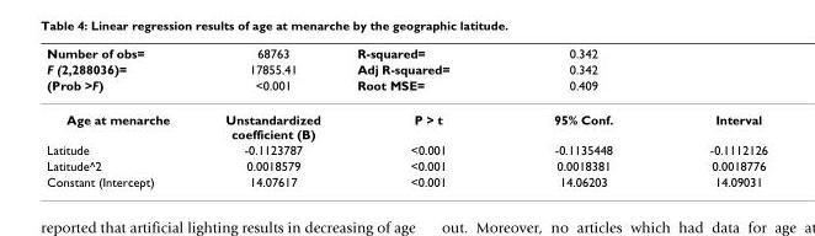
<table><thead><tr><td rowspan="3">Number of obs= F (2,288036)= (Prob &gt;F)</td><td rowspan="3">68763 17855.41 &lt;0.001</td><td rowspan="3">R-squared= Adj R-squared= Root MSE=</td><td rowspan="3">0.342 0.342 0.409</td><td rowspan="3"></td></tr><tr></tr><tr></tr></thead><tbody><tr><td>Age at menarche</td><td>Unstandardized coefficient (B)</td><td>P &gt; t</td><td>95% Conf.</td><td>Interval</td></tr><tr><td>Latitude</td><td>-0.1123787</td><td>&lt;0.001</td><td>-0.1135448</td><td>-0.1112126</td></tr><tr><td>Latitude^2</td><td>0.0018579</td><td>&lt;0.001</td><td>0.0018381</td><td>0.0018776</td></tr><tr><td>Constant (Intercept)</td><td>14.07617</td><td>&lt;0.001</td><td>14.06203</td><td>14.09031</td></tr></tbody></table>